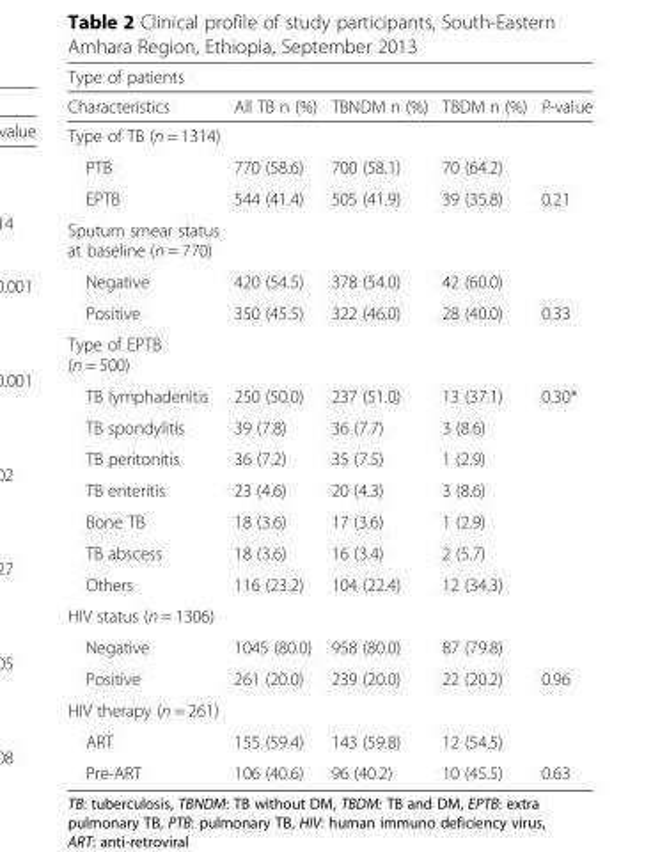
<table><thead><tr><td colspan="5">Type of patients</td></tr><tr><td>Characteristics</td><td>All TB n (%)</td><td>TBNDM n (%)</td><td>TBDM n (%)</td><td>P-value</td></tr></thead><tbody><tr><td colspan="5">Type of TB (n = 1314)</td></tr><tr><td>PTB</td><td>770 (58.6)</td><td>700 (58.1)</td><td>70 (64.2)</td><td></td></tr><tr><td>EPTB</td><td>544 (41.4)</td><td>505 (41.9)</td><td>39 (35.8)</td><td>0.21</td></tr><tr><td colspan="5">Sputum smear status at baseline (n = 770)</td></tr><tr><td>Negative</td><td>420 (54.5)</td><td>378 (54.0)</td><td>42 (60.0)</td><td></td></tr><tr><td>Positive</td><td>350 (45.5)</td><td>322 (46.0)</td><td>28 (40.0)</td><td>0.33</td></tr><tr><td colspan="5">Type of EPTB (n = 500)</td></tr><tr><td>TB lymphadenitis</td><td>250 (50.0)</td><td>237 (51.0)</td><td>13 (37.1)</td><td>0.30*</td></tr><tr><td>TB spondylitis</td><td>39 (7.8)</td><td>36 (7.7)</td><td>3 (8.6)</td><td></td></tr><tr><td>TB peritonitis</td><td>36 (7.2)</td><td>35 (7.5)</td><td>1 (2.9)</td><td></td></tr><tr><td>TB enteritis</td><td>23 (4.6)</td><td>20 (4.3)</td><td>3 (8.6)</td><td></td></tr><tr><td>Bone TB</td><td>18 (3.6)</td><td>17 (3.6)</td><td>1 (2.9)</td><td></td></tr><tr><td>TB abscess</td><td>18 (3.6)</td><td>16 (3.4)</td><td>2 (5.7)</td><td></td></tr><tr><td>Others</td><td>116 (23.2)</td><td>104 (22.4)</td><td>12 (34.3)</td><td></td></tr><tr><td colspan="5">HIV status (n = 1306)</td></tr><tr><td>Negative</td><td>1045 (80.0)</td><td>958 (80.0)</td><td>87 (79.8)</td><td></td></tr><tr><td>Positive</td><td>261 (20.0)</td><td>239 (20.0)</td><td>22 (20.2)</td><td>0.96</td></tr><tr><td colspan="5">HIV therapy (n = 261)</td></tr><tr><td>ART</td><td>155 (59.4)</td><td>143 (59.8)</td><td>12 (54.5)</td><td></td></tr><tr><td>Pre-ART</td><td>106 (40.6)</td><td>96 (40.2)</td><td>10 (45.5)</td><td>0.63</td></tr></tbody></table>